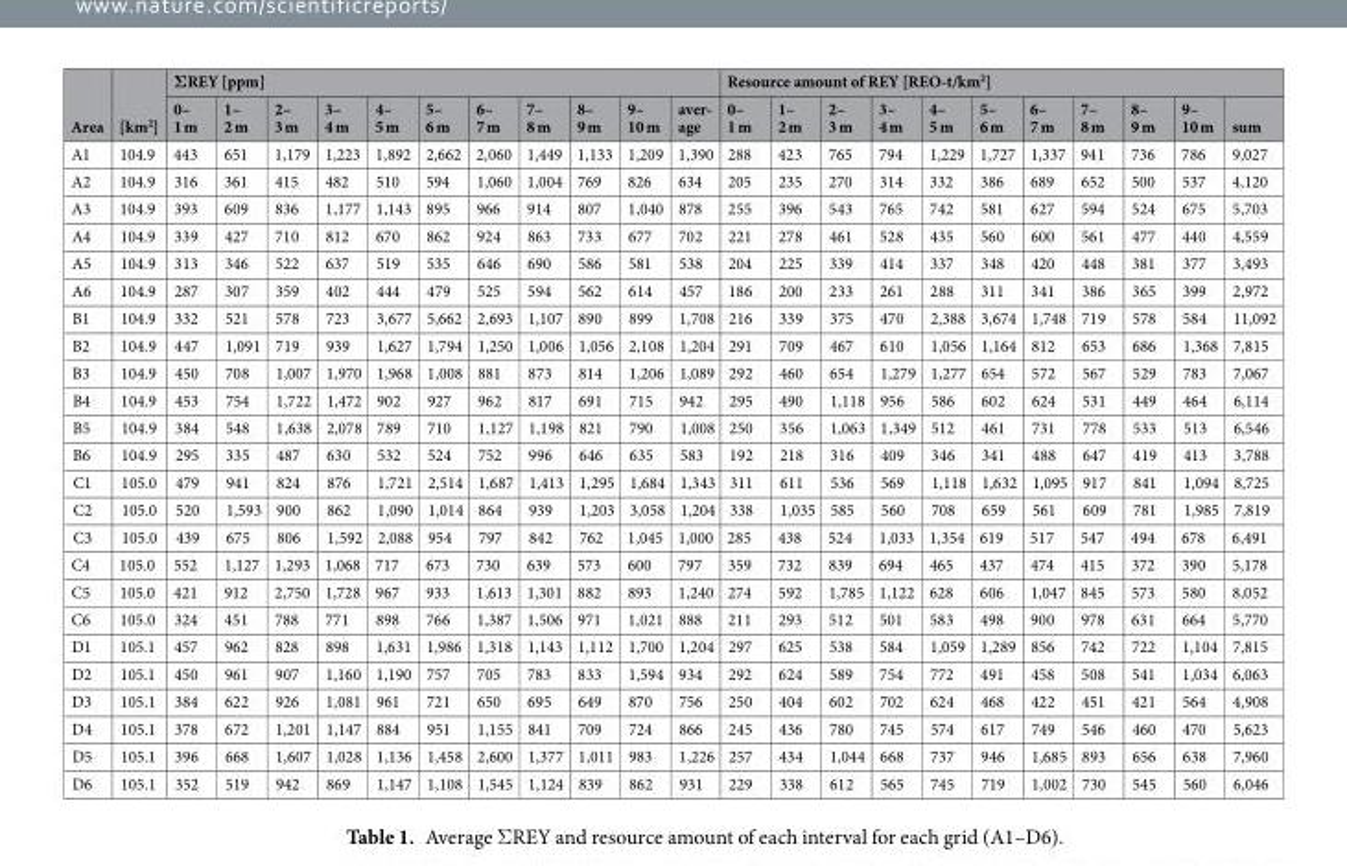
<table><thead><tr><td rowspan="2">Area</td><td rowspan="2">[km<sup>2</sup>]</td><td colspan="11">ΣREY [ppm]</td><td colspan="11">Resource amount of REY [REO-t/km<sup>2</sup>]</td></tr><tr><td>0– 1 m</td><td>1– 2 m</td><td>2– 3 m</td><td>3– 4 m</td><td>4– 5 m</td><td>5– 6 m</td><td>6– 7 m</td><td>7– 8 m</td><td>8– 9 m</td><td>9– 10 m</td><td>aver- age</td><td>0– 1 m</td><td>1– 2 m</td><td>2– 3 m</td><td>3– 4 m</td><td>4– 5 m</td><td>5– 6 m</td><td>6– 7 m</td><td>7– 8 m</td><td>8– 9 m</td><td>9– 10 m</td><td>sum</td></tr></thead><tbody><tr><td>A1</td><td>104.9</td><td>443</td><td>651</td><td>1,179</td><td>1,223</td><td>1,892</td><td>2,662</td><td>2,060</td><td>1,449</td><td>1,133</td><td>1,209</td><td>1,390</td><td>288</td><td>423</td><td>765</td><td>794</td><td>1,229</td><td>1,727</td><td>1,337</td><td>941</td><td>736</td><td>786</td><td>9,027</td></tr><tr><td>A2</td><td>104.9</td><td>316</td><td>361</td><td>415</td><td>482</td><td>510</td><td>594</td><td>1,060</td><td>1,004</td><td>769</td><td>826</td><td>634</td><td>205</td><td>235</td><td>270</td><td>314</td><td>332</td><td>386</td><td>689</td><td>652</td><td>500</td><td>537</td><td>4,120</td></tr><tr><td>A3</td><td>104.9</td><td>393</td><td>609</td><td>836</td><td>1,177</td><td>1,143</td><td>895</td><td>966</td><td>914</td><td>807</td><td>1,040</td><td>878</td><td>255</td><td>396</td><td>543</td><td>765</td><td>742</td><td>581</td><td>627</td><td>594</td><td>524</td><td>675</td><td>5,703</td></tr><tr><td>A4</td><td>104.9</td><td>339</td><td>427</td><td>710</td><td>812</td><td>670</td><td>862</td><td>924</td><td>863</td><td>733</td><td>677</td><td>702</td><td>221</td><td>278</td><td>461</td><td>528</td><td>435</td><td>560</td><td>600</td><td>561</td><td>477</td><td>440</td><td>4,559</td></tr><tr><td>A5</td><td>104.9</td><td>313</td><td>346</td><td>522</td><td>637</td><td>519</td><td>535</td><td>646</td><td>690</td><td>586</td><td>581</td><td>538</td><td>204</td><td>225</td><td>339</td><td>414</td><td>337</td><td>348</td><td>420</td><td>448</td><td>381</td><td>377</td><td>3,493</td></tr><tr><td>A6</td><td>104.9</td><td>287</td><td>307</td><td>359</td><td>402</td><td>444</td><td>479</td><td>525</td><td>594</td><td>562</td><td>614</td><td>457</td><td>186</td><td>200</td><td>233</td><td>261</td><td>288</td><td>311</td><td>341</td><td>386</td><td>365</td><td>399</td><td>2,972</td></tr><tr><td>B1</td><td>104.9</td><td>332</td><td>521</td><td>578</td><td>723</td><td>3,677</td><td>5,662</td><td>2,693</td><td>1,107</td><td>890</td><td>899</td><td>1,708</td><td>216</td><td>339</td><td>375</td><td>470</td><td>2,388</td><td>3,674</td><td>1,748</td><td>719</td><td>578</td><td>584</td><td>11,092</td></tr><tr><td>B2</td><td>104.9</td><td>447</td><td>1,091</td><td>719</td><td>939</td><td>1,627</td><td>1,794</td><td>1,250</td><td>1,006</td><td>1,056</td><td>2,108</td><td>1,204</td><td>291</td><td>709</td><td>467</td><td>610</td><td>1,056</td><td>1,164</td><td>812</td><td>653</td><td>686</td><td>1,368</td><td>7,815</td></tr><tr><td>B3</td><td>104.9</td><td>450</td><td>708</td><td>1,007</td><td>1,970</td><td>1,968</td><td>1,008</td><td>881</td><td>873</td><td>814</td><td>1,206</td><td>1,089</td><td>292</td><td>460</td><td>654</td><td>1,279</td><td>1,277</td><td>654</td><td>572</td><td>567</td><td>529</td><td>783</td><td>7,067</td></tr><tr><td>B4</td><td>104.9</td><td>453</td><td>754</td><td>1,722</td><td>1,472</td><td>902</td><td>927</td><td>962</td><td>817</td><td>691</td><td>715</td><td>942</td><td>295</td><td>490</td><td>1,118</td><td>956</td><td>586</td><td>602</td><td>624</td><td>531</td><td>449</td><td>464</td><td>6,114</td></tr><tr><td>B5</td><td>104.9</td><td>384</td><td>548</td><td>1,638</td><td>2,078</td><td>789</td><td>710</td><td>1,127</td><td>1,198</td><td>821</td><td>790</td><td>1,008</td><td>250</td><td>356</td><td>1,063</td><td>1,349</td><td>512</td><td>461</td><td>731</td><td>778</td><td>533</td><td>513</td><td>6,546</td></tr><tr><td>B6</td><td>104.9</td><td>295</td><td>335</td><td>487</td><td>630</td><td>532</td><td>524</td><td>752</td><td>996</td><td>646</td><td>635</td><td>583</td><td>192</td><td>218</td><td>316</td><td>409</td><td>346</td><td>341</td><td>488</td><td>647</td><td>419</td><td>413</td><td>3,788</td></tr><tr><td>C1</td><td>105.0</td><td>479</td><td>941</td><td>824</td><td>876</td><td>1,721</td><td>2,514</td><td>1,687</td><td>1,413</td><td>1,295</td><td>1,684</td><td>1,343</td><td>311</td><td>611</td><td>536</td><td>569</td><td>1,118</td><td>1,632</td><td>1,095</td><td>917</td><td>841</td><td>1,094</td><td>8,725</td></tr><tr><td>C2</td><td>105.0</td><td>520</td><td>1,593</td><td>900</td><td>862</td><td>1,090</td><td>1,014</td><td>864</td><td>939</td><td>1,203</td><td>3,058</td><td>1,204</td><td>338</td><td>1,035</td><td>585</td><td>560</td><td>708</td><td>659</td><td>561</td><td>609</td><td>781</td><td>1,985</td><td>7,819</td></tr><tr><td>C3</td><td>105.0</td><td>439</td><td>675</td><td>806</td><td>1,592</td><td>2,088</td><td>954</td><td>797</td><td>842</td><td>762</td><td>1,045</td><td>1,000</td><td>285</td><td>438</td><td>524</td><td>1,033</td><td>1,354</td><td>619</td><td>517</td><td>547</td><td>494</td><td>678</td><td>6,491</td></tr><tr><td>C4</td><td>105.0</td><td>552</td><td>1,127</td><td>1,293</td><td>1,068</td><td>717</td><td>673</td><td>730</td><td>639</td><td>573</td><td>600</td><td>797</td><td>359</td><td>732</td><td>839</td><td>694</td><td>465</td><td>437</td><td>474</td><td>415</td><td>372</td><td>390</td><td>5,178</td></tr><tr><td>C5</td><td>105.0</td><td>421</td><td>912</td><td>2,750</td><td>1,728</td><td>967</td><td>933</td><td>1,613</td><td>1,301</td><td>882</td><td>893</td><td>1,240</td><td>274</td><td>592</td><td>1,785</td><td>1,122</td><td>628</td><td>606</td><td>1,047</td><td>845</td><td>573</td><td>580</td><td>8,052</td></tr><tr><td>C6</td><td>105.0</td><td>324</td><td>451</td><td>788</td><td>771</td><td>898</td><td>766</td><td>1,387</td><td>1,506</td><td>971</td><td>1,021</td><td>888</td><td>211</td><td>293</td><td>512</td><td>501</td><td>583</td><td>498</td><td>900</td><td>978</td><td>631</td><td>664</td><td>5,770</td></tr><tr><td>D1</td><td>105.1</td><td>457</td><td>962</td><td>828</td><td>898</td><td>1,631</td><td>1,986</td><td>1,318</td><td>1,143</td><td>1,112</td><td>1,700</td><td>1,204</td><td>297</td><td>625</td><td>538</td><td>584</td><td>1,059</td><td>1,289</td><td>856</td><td>742</td><td>722</td><td>1,104</td><td>7,815</td></tr><tr><td>D2</td><td>105.1</td><td>450</td><td>961</td><td>907</td><td>1,160</td><td>1,190</td><td>757</td><td>705</td><td>783</td><td>833</td><td>1,594</td><td>934</td><td>292</td><td>624</td><td>589</td><td>754</td><td>772</td><td>491</td><td>458</td><td>508</td><td>541</td><td>1,034</td><td>6,063</td></tr><tr><td>D3</td><td>105.1</td><td>384</td><td>622</td><td>926</td><td>1,081</td><td>961</td><td>721</td><td>650</td><td>695</td><td>649</td><td>870</td><td>756</td><td>250</td><td>404</td><td>602</td><td>702</td><td>624</td><td>468</td><td>422</td><td>451</td><td>421</td><td>564</td><td>4,908</td></tr><tr><td>D4</td><td>105.1</td><td>378</td><td>672</td><td>1,201</td><td>1,147</td><td>884</td><td>951</td><td>1,155</td><td>841</td><td>709</td><td>724</td><td>866</td><td>245</td><td>436</td><td>780</td><td>745</td><td>574</td><td>617</td><td>749</td><td>546</td><td>460</td><td>470</td><td>5,623</td></tr><tr><td>D5</td><td>105.1</td><td>396</td><td>668</td><td>1,607</td><td>1,028</td><td>1,136</td><td>1,458</td><td>2,600</td><td>1,377</td><td>1,011</td><td>983</td><td>1,226</td><td>257</td><td>434</td><td>1,044</td><td>668</td><td>737</td><td>946</td><td>1,685</td><td>893</td><td>656</td><td>638</td><td>7,960</td></tr><tr><td>D6</td><td>105.1</td><td>352</td><td>519</td><td>942</td><td>869</td><td>1,147</td><td>1,108</td><td>1,545</td><td>1,124</td><td>839</td><td>862</td><td>931</td><td>229</td><td>338</td><td>612</td><td>565</td><td>745</td><td>719</td><td>1,002</td><td>730</td><td>545</td><td>560</td><td>6,046</td></tr></tbody></table>